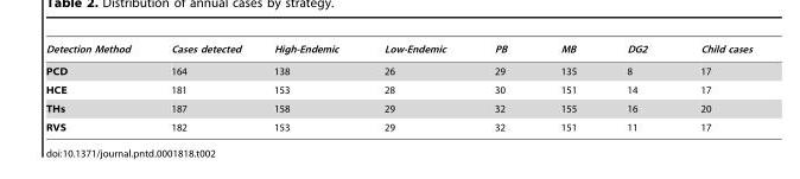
<table><thead><tr><td>Detection Method</td><td>Cases detected</td><td>High-Endemic</td><td>Low-Endemic</td><td>PB</td><td>MB</td><td>DG2</td><td>Child cases</td></tr></thead><tbody><tr><td>PCD</td><td>164</td><td>138</td><td>26</td><td>29</td><td>135</td><td>8</td><td>17</td></tr><tr><td>HCE</td><td>181</td><td>153</td><td>28</td><td>30</td><td>151</td><td>14</td><td>17</td></tr><tr><td>THs</td><td>187</td><td>158</td><td>29</td><td>32</td><td>155</td><td>16</td><td>20</td></tr><tr><td>RVS</td><td>182</td><td>153</td><td>29</td><td>32</td><td>151</td><td>11</td><td>17</td></tr></tbody></table>